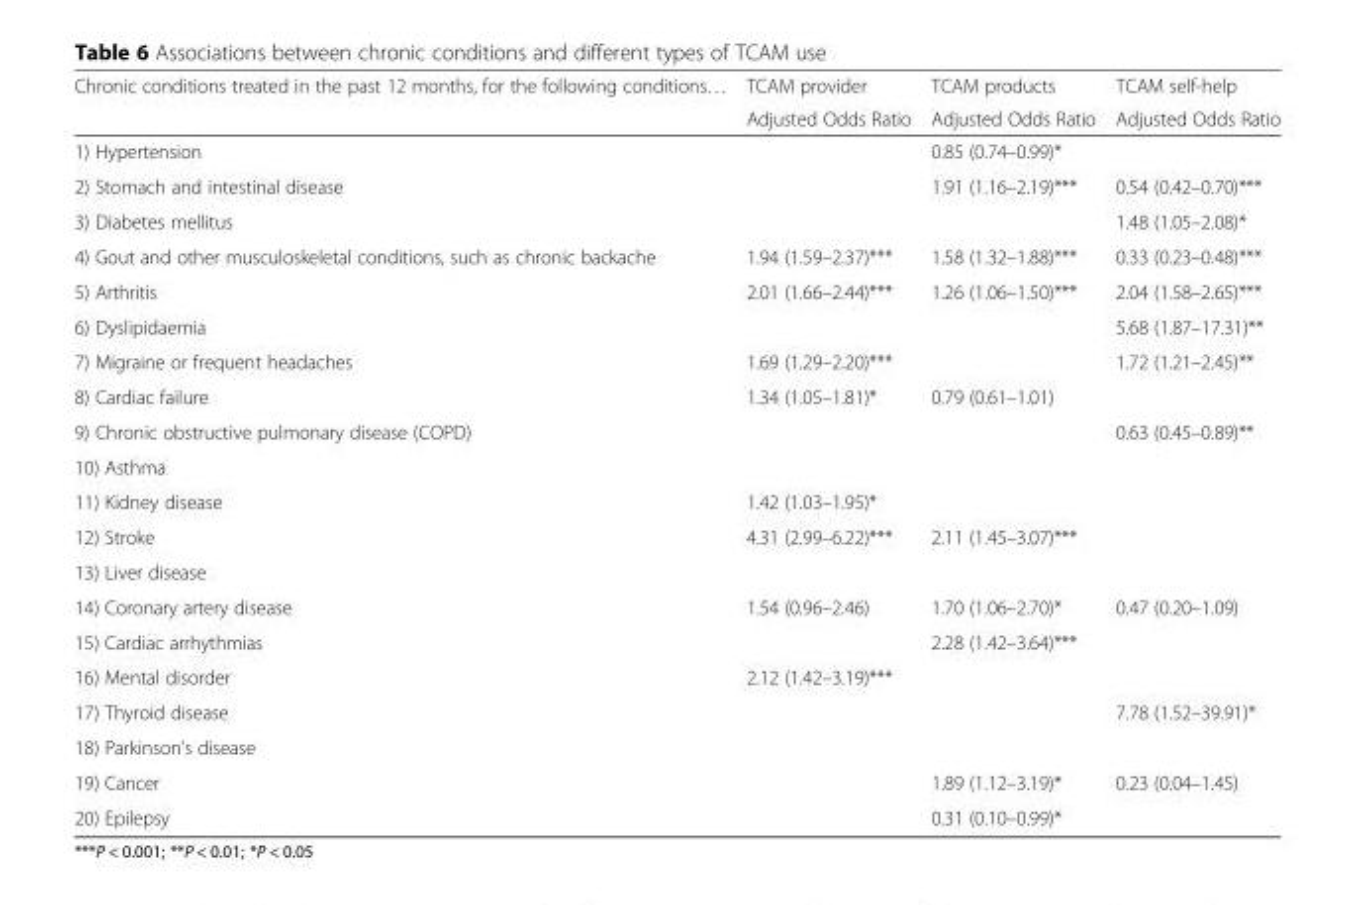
<table><thead><tr><td rowspan="2">Chronic conditions treated in the past 12 months, for the following conditions…</td><td rowspan="2">TCAM provider Adjusted Odds Ratio</td><td rowspan="2">TCAM products Adjusted Odds Ratio</td><td rowspan="2">TCAM self-help Adjusted Odds Ratio</td></tr><tr></tr></thead><tbody><tr><td>1) Hypertension</td><td></td><td>0.85 (0.74–0.99)*</td><td></td></tr><tr><td>2) Stomach and intestinal disease</td><td></td><td>1.91 (1.16–2.19)***</td><td>0.54 (0.42–0.70)***</td></tr><tr><td>3) Diabetes mellitus</td><td></td><td></td><td>1.48 (1.05–2.08)*</td></tr><tr><td>4) Gout and other musculoskeletal conditions, such as chronic backache</td><td>1.94 (1.59–2.37)***</td><td>1.58 (1.32–1.88)***</td><td>0.33 (0.23–0.48)***</td></tr><tr><td>5) Arthritis</td><td>2.01 (1.66–2.44)***</td><td>1.26 (1.06–1.50)***</td><td>2.04 (1.58–2.65)***</td></tr><tr><td>6) Dyslipidaemia</td><td></td><td></td><td>5.68 (1.87–17.31)**</td></tr><tr><td>7) Migraine or frequent headaches</td><td>1.69 (1.29–2.20)***</td><td></td><td>1.72 (1.21–2.45)**</td></tr><tr><td>8) Cardiac failure</td><td>1.34 (1.05–1.81)*</td><td>0.79 (0.61–1.01)</td><td></td></tr><tr><td>9) Chronic obstructive pulmonary disease (COPD)</td><td></td><td></td><td>0.63 (0.45–0.89)**</td></tr><tr><td colspan="4">10) Asthma</td></tr><tr><td>11) Kidney disease</td><td>1.42 (1.03–1.95)*</td><td></td><td></td></tr><tr><td>12) Stroke</td><td>4.31 (2.99–6.22)***</td><td>2.11 (1.45–3.07)***</td><td></td></tr><tr><td colspan="4">13) Liver disease</td></tr><tr><td>14) Coronary artery disease</td><td>1.54 (0.96–2.46)</td><td>1.70 (1.06–2.70)*</td><td>0.47 (0.20–1.09)</td></tr><tr><td>15) Cardiac arrhythmias</td><td></td><td>2.28 (1.42–3.64)***</td><td></td></tr><tr><td>16) Mental disorder</td><td>2.12 (1.42–3.19)***</td><td></td><td></td></tr><tr><td>17) Thyroid disease</td><td></td><td></td><td>7.78 (1.52–39.91)*</td></tr><tr><td colspan="4">18) Parkinson’s disease</td></tr><tr><td>19) Cancer</td><td></td><td>1.89 (1.12–3.19)*</td><td>0.23 (0.04–1.45)</td></tr><tr><td>20) Epilepsy</td><td></td><td>0.31 (0.10–0.99)*</td><td></td></tr></tbody></table>